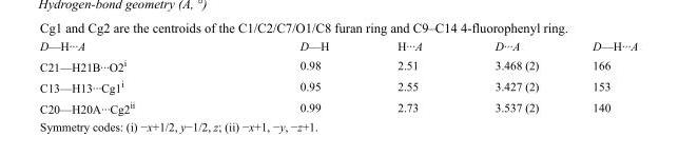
<table><tbody><tr><td>D—H···A</td><td>D—H</td><td>H···A</td><td>D···A</td><td>D—H···A</td></tr><tr><td>C21—H21B···O2<sup>i</sup></td><td>0.98</td><td>2.51</td><td>3.468 (2)</td><td>166</td></tr><tr><td>C13—H13···Cg1<sup>i</sup></td><td>0.95</td><td>2.55</td><td>3.427 (2)</td><td>153</td></tr><tr><td>C20—H20A···Cg2<sup>ii</sup></td><td>0.99</td><td>2.73</td><td>3.537 (2)</td><td>140</td></tr></tbody></table>